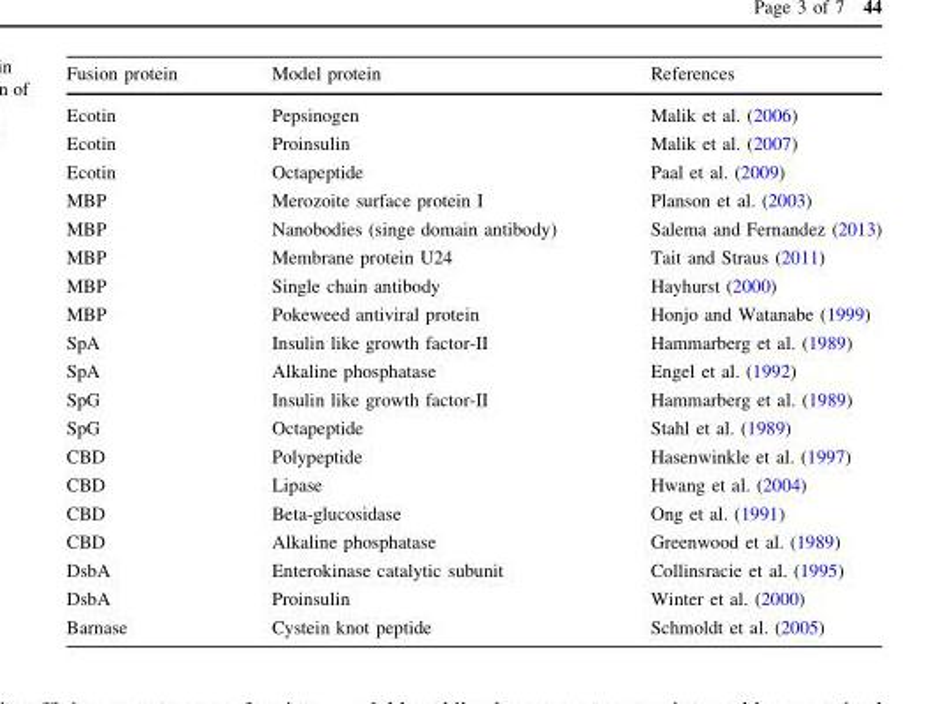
<table><thead><tr><td>Fusion protein</td><td>Model protein</td><td>References</td></tr></thead><tbody><tr><td>Ecotin</td><td>Pepsinogen</td><td>Malik et al. (2006)</td></tr><tr><td>Ecotin</td><td>Proinsulin</td><td>Malik et al. (2007)</td></tr><tr><td>Ecotin</td><td>Octapeptide</td><td>Paal et al. (2009)</td></tr><tr><td>MBP</td><td>Merozoite surface protein I</td><td>Planson et al. (2003)</td></tr><tr><td>MBP</td><td>Nanobodies (singe domain antibody)</td><td>Salema and Fernandez (2013)</td></tr><tr><td>MBP</td><td>Membrane protein U24</td><td>Tait and Straus (2011)</td></tr><tr><td>MBP</td><td>Single chain antibody</td><td>Hayhurst (2000)</td></tr><tr><td>MBP</td><td>Pokeweed antiviral protein</td><td>Honjo and Watanabe (1999)</td></tr><tr><td>SpA</td><td>Insulin like growth factor-II</td><td>Hammarberg et al. (1989)</td></tr><tr><td>SpA</td><td>Alkaline phosphatase</td><td>Engel et al. (1992)</td></tr><tr><td>SpG</td><td>Insulin like growth factor-II</td><td>Hammarberg et al. (1989)</td></tr><tr><td>SpG</td><td>Octapeptide</td><td>Stahl et al. (1989)</td></tr><tr><td>CBD</td><td>Polypeptide</td><td>Hasenwinkle et al. (1997)</td></tr><tr><td>CBD</td><td>Lipase</td><td>Hwang et al. (2004)</td></tr><tr><td>CBD</td><td>Beta-glucosidase</td><td>Ong et al. (1991)</td></tr><tr><td>CBD</td><td>Alkaline phosphatase</td><td>Greenwood et al. (1989)</td></tr><tr><td>DsbA</td><td>Enterokinase catalytic subunit</td><td>Collinsracie et al. (1995)</td></tr><tr><td>DsbA</td><td>Proinsulin</td><td>Winter et al. (2000)</td></tr><tr><td>Barnase</td><td>Cystein knot peptide</td><td>Schmoldt et al. (2005)</td></tr></tbody></table>